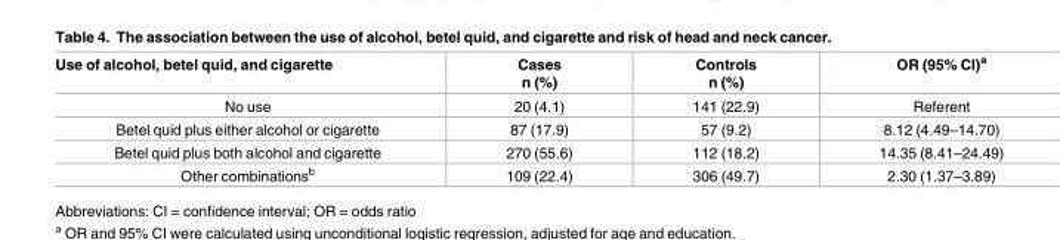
<table><thead><tr><td>Use of alcohol, betel quid, and cigarette</td><td>Cases n (%)</td><td>Controls n (%)</td><td>OR (95% CI)<sup>a</sup></td></tr></thead><tbody><tr><td>No use</td><td>20 (4.1)</td><td>141 (22.9)</td><td>Referent</td></tr><tr><td>Betel quid plus either alcohol or cigarette</td><td>87 (17.9)</td><td>57 (9.2)</td><td>8.12 (4.49–14.70)</td></tr><tr><td>Betel quid plus both alcohol and cigarette</td><td>270 (55.6)</td><td>112 (18.2)</td><td>14.35 (8.41–24.49)</td></tr><tr><td>Other combinations<sup>b</sup></td><td>109 (22.4)</td><td>306 (49.7)</td><td>2.30 (1.37–3.89)</td></tr></tbody></table>